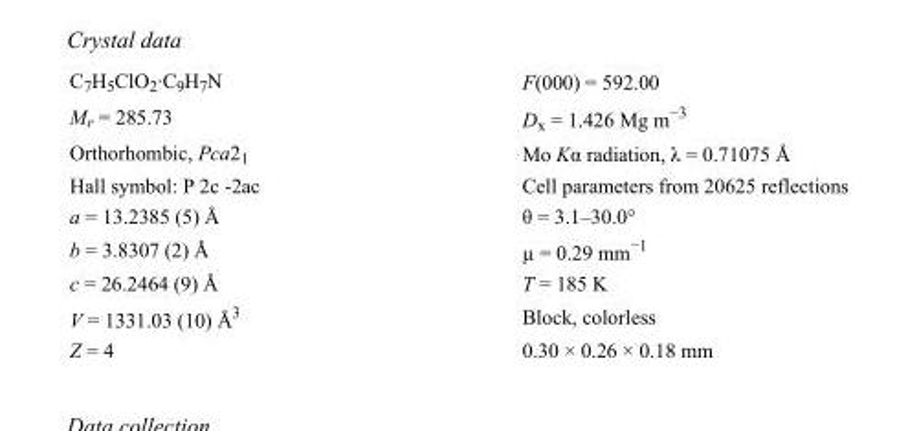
<table><tbody><tr><td>C<sub>7</sub>H<sub>5</sub>ClO<sub>2</sub>·C<sub>9</sub>H<sub>7</sub>N</td><td>F(000) = 592.00</td></tr><tr><td>M<sub>r</sub> = 285.73</td><td>D<sub>x</sub> = 1.426 Mg m<sup>−3</sup></td></tr><tr><td>Orthorhombic, Pca2<sub>1</sub></td><td>Mo Kα radiation, λ = 0.71075 Å</td></tr><tr><td>Hall symbol: P 2c -2ac</td><td>Cell parameters from 20625 reflections</td></tr><tr><td>a = 13.2385 (5) Å</td><td>θ = 3.1–30.0°</td></tr><tr><td>b = 3.8307 (2) Å</td><td>µ = 0.29 mm<sup>−1</sup></td></tr><tr><td>c = 26.2464 (9) Å</td><td>T = 185 K</td></tr><tr><td>V = 1331.03 (10) Å<sup>3</sup></td><td>Block, colorless</td></tr><tr><td>Z = 4</td><td>0.30 × 0.26 × 0.18 mm</td></tr></tbody></table>